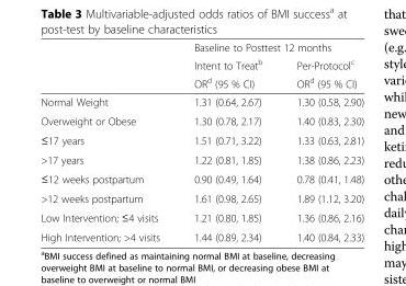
<table><thead><tr><td rowspan="3"></td><td colspan="2">Baseline to Posttest 12 months</td></tr><tr><td rowspan="2">Intent to Treat<sup>b</sup> OR<sup>d</sup> (95 % CI)</td><td rowspan="2">Per-Protocol<sup>c</sup> OR<sup>d</sup> (95 % CI)</td></tr><tr></tr></thead><tbody><tr><td>Normal Weight</td><td>1.31 (0.64, 2.67)</td><td>1.30 (0.58, 2.90)</td></tr><tr><td>Overweight or Obese</td><td>1.30 (0.78, 2.17)</td><td>1.40 (0.83, 2.30)</td></tr><tr><td>≤17 years</td><td>1.51 (0.71, 3.22)</td><td>1.33 (0.63, 2.81)</td></tr><tr><td>&gt;17 years</td><td>1.22 (0.81, 1.85)</td><td>1.38 (0.86, 2.23)</td></tr><tr><td>≤12 weeks postpartum</td><td>0.90 (0.49, 1.64)</td><td>0.78 (0.41, 1.48)</td></tr><tr><td>&gt;12 weeks postpartum</td><td>1.61 (0.98, 2.65)</td><td>1.89 (1.12, 3.20)</td></tr><tr><td>Low Intervention; ≤4 visits</td><td>1.21 (0.80, 1.85)</td><td>1.36 (0.86, 2.16)</td></tr><tr><td>High Intervention; &gt;4 visits</td><td>1.44 (0.89, 2.34)</td><td>1.40 (0.84, 2.33)</td></tr></tbody></table>